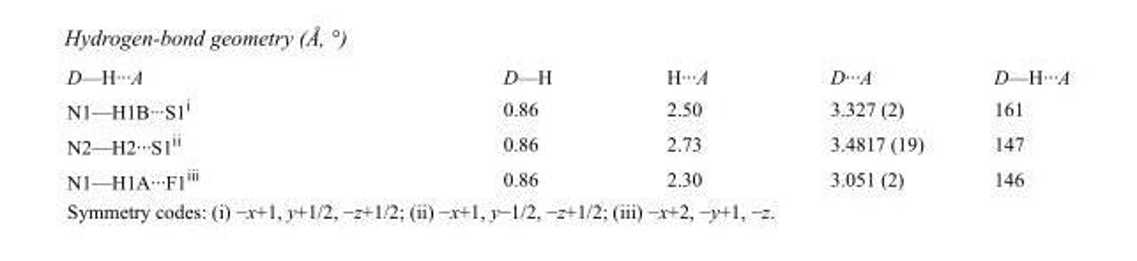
<table><tbody><tr><td>D—H···A</td><td>D—H</td><td>H···A</td><td>D···A</td><td>D—H···A</td></tr><tr><td>N1—H1B···S1<sup>i</sup></td><td>0.86</td><td>2.50</td><td>3.327 (2)</td><td>161</td></tr><tr><td>N2—H2···S1<sup>ii</sup></td><td>0.86</td><td>2.73</td><td>3.4817 (19)</td><td>147</td></tr><tr><td>N1—H1A···F1<sup>iii</sup></td><td>0.86</td><td>2.30</td><td>3.051 (2)</td><td>146</td></tr></tbody></table>